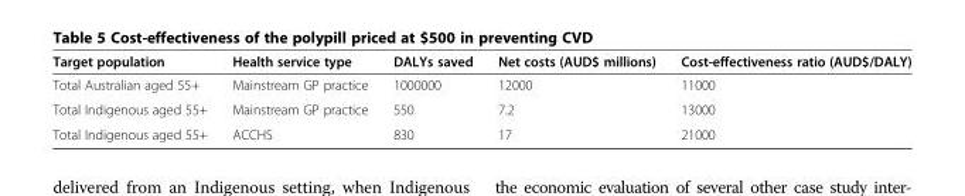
<table><thead><tr><td>Target population</td><td>Health service type</td><td>DALYs saved</td><td>Net costs (AUD$ millions)</td><td>Cost-effectiveness ratio (AUD$/DALY)</td></tr></thead><tbody><tr><td>Total Australian aged 55+</td><td>Mainstream GP practice</td><td>1000000</td><td>12000</td><td>11000</td></tr><tr><td>Total Indigenous aged 55+</td><td>Mainstream GP practice</td><td>550</td><td>7.2</td><td>13000</td></tr><tr><td>Total Indigenous aged 55+</td><td>ACCHS</td><td>830</td><td>17</td><td>21000</td></tr></tbody></table>